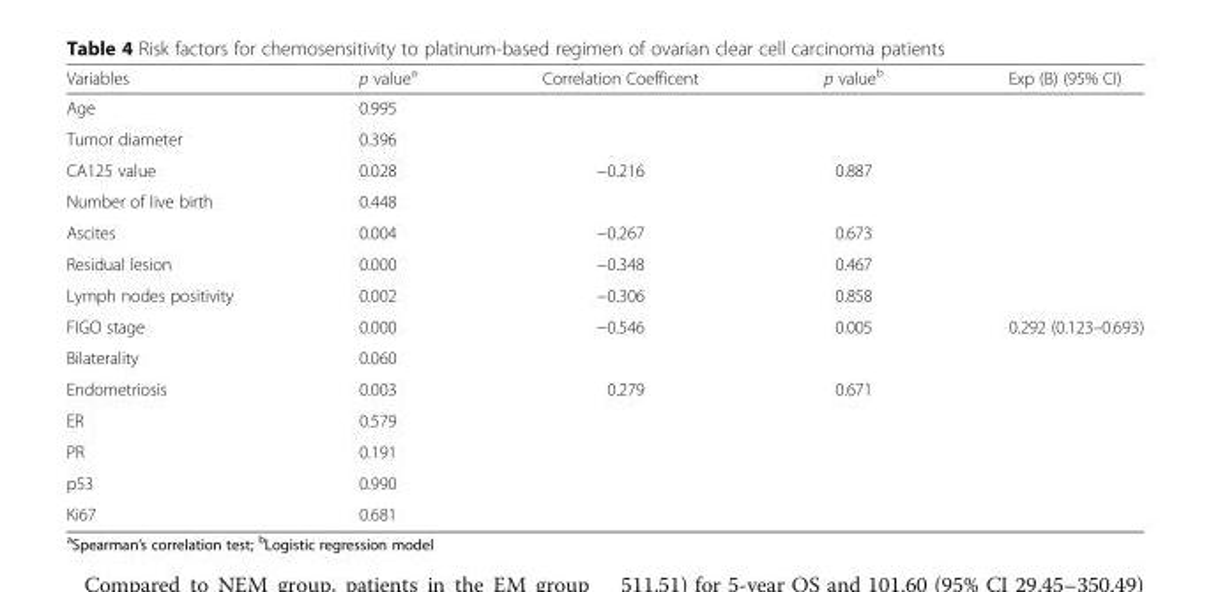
<table><thead><tr><td>Variables</td><td>p value<sup>a</sup></td><td>Correlation Coefficent</td><td>p value<sup>b</sup></td><td>Exp (B) (95% CI)</td></tr></thead><tbody><tr><td>Age</td><td>0.995</td><td></td><td></td><td></td></tr><tr><td>Tumor diameter</td><td>0.396</td><td></td><td></td><td></td></tr><tr><td>CA125 value</td><td>0.028</td><td>−0.216</td><td>0.887</td><td></td></tr><tr><td>Number of live birth</td><td>0.448</td><td></td><td></td><td></td></tr><tr><td>Ascites</td><td>0.004</td><td>−0.267</td><td>0.673</td><td></td></tr><tr><td>Residual lesion</td><td>0.000</td><td>−0.348</td><td>0.467</td><td></td></tr><tr><td>Lymph nodes positivity</td><td>0.002</td><td>−0.306</td><td>0.858</td><td></td></tr><tr><td>FIGO stage</td><td>0.000</td><td>−0.546</td><td>0.005</td><td>0.292 (0.123–0.693)</td></tr><tr><td>Bilaterality</td><td>0.060</td><td></td><td></td><td></td></tr><tr><td>Endometriosis</td><td>0.003</td><td>0.279</td><td>0.671</td><td></td></tr><tr><td>ER</td><td>0.579</td><td></td><td></td><td></td></tr><tr><td>PR</td><td>0.191</td><td></td><td></td><td></td></tr><tr><td>p53</td><td>0.990</td><td></td><td></td><td></td></tr><tr><td>Ki67</td><td>0.681</td><td></td><td></td><td></td></tr></tbody></table>